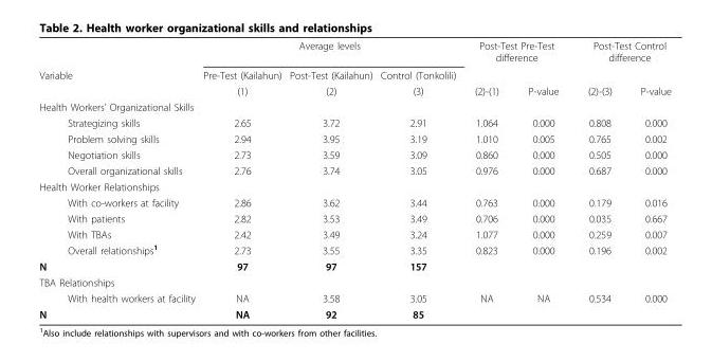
<table><thead><tr><td rowspan="3">Variable</td><td colspan="3">Average levels</td><td rowspan="2" colspan="2">Post-Test Pre-Test difference</td><td rowspan="2" colspan="2">Post-Test Control difference</td></tr><tr><td rowspan="2">Pre-Test (Kailahun) (1)</td><td rowspan="2">Post-Test (Kailahun) (2)</td><td rowspan="2">Control (Tonkolili) (3)</td></tr><tr><td>(2)-(1)</td><td>P-value</td><td>(2)-(3)</td><td>P-value</td></tr></thead><tbody><tr><td colspan="8">Health Workers’ Organizational Skills</td></tr><tr><td>Strategizing skills</td><td>2.65</td><td>3.72</td><td>2.91</td><td>1.064</td><td>0.000</td><td>0.808</td><td>0.000</td></tr><tr><td>Problem solving skills</td><td>2.94</td><td>3.95</td><td>3.19</td><td>1.010</td><td>0.005</td><td>0.765</td><td>0.002</td></tr><tr><td>Negotiation skills</td><td>2.73</td><td>3.59</td><td>3.09</td><td>0.860</td><td>0.000</td><td>0.505</td><td>0.000</td></tr><tr><td>Overall organizational skills</td><td>2.76</td><td>3.74</td><td>3.05</td><td>0.976</td><td>0.000</td><td>0.687</td><td>0.000</td></tr><tr><td colspan="8">Health Worker Relationships</td></tr><tr><td>With co-workers at facility</td><td>2.86</td><td>3.62</td><td>3.44</td><td>0.763</td><td>0.000</td><td>0.179</td><td>0.016</td></tr><tr><td>With patients</td><td>2.82</td><td>3.53</td><td>3.49</td><td>0.706</td><td>0.000</td><td>0.035</td><td>0.667</td></tr><tr><td>With TBAs</td><td>2.42</td><td>3.49</td><td>3.24</td><td>1.077</td><td>0.000</td><td>0.259</td><td>0.007</td></tr><tr><td>Overall relationships<sup>1</sup></td><td>2.73</td><td>3.55</td><td>3.35</td><td>0.823</td><td>0.000</td><td>0.196</td><td>0.002</td></tr><tr><td>N</td><td>97</td><td>97</td><td>157</td><td></td><td></td><td></td><td></td></tr><tr><td colspan="8">TBA Relationships</td></tr><tr><td>With health workers at facility</td><td>NA</td><td>3.58</td><td>3.05</td><td>NA</td><td>NA</td><td>0.534</td><td>0.000</td></tr><tr><td>N</td><td>NA</td><td>92</td><td>85</td><td></td><td></td><td></td><td></td></tr></tbody></table>